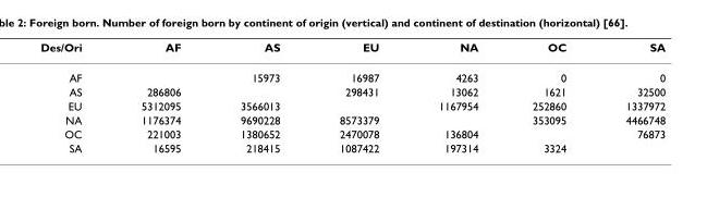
<table><thead><tr><td>Des/Ori</td><td>AF</td><td>AS</td><td>EU</td><td>NA</td><td>OC</td><td>SA</td></tr></thead><tbody><tr><td>AF</td><td></td><td>15973</td><td>16987</td><td>4263</td><td>0</td><td>0</td></tr><tr><td>AS</td><td>286806</td><td></td><td>298431</td><td>13062</td><td>1621</td><td>32500</td></tr><tr><td>EU</td><td>5312095</td><td>3566013</td><td></td><td>1167954</td><td>252860</td><td>1337972</td></tr><tr><td>NA</td><td>1176374</td><td>9690228</td><td>8573379</td><td></td><td>353095</td><td>4466748</td></tr><tr><td>OC</td><td>221003</td><td>1380652</td><td>2470078</td><td>136804</td><td></td><td>76873</td></tr><tr><td>SA</td><td>16595</td><td>218415</td><td>1087422</td><td>197314</td><td>3324</td><td></td></tr></tbody></table>